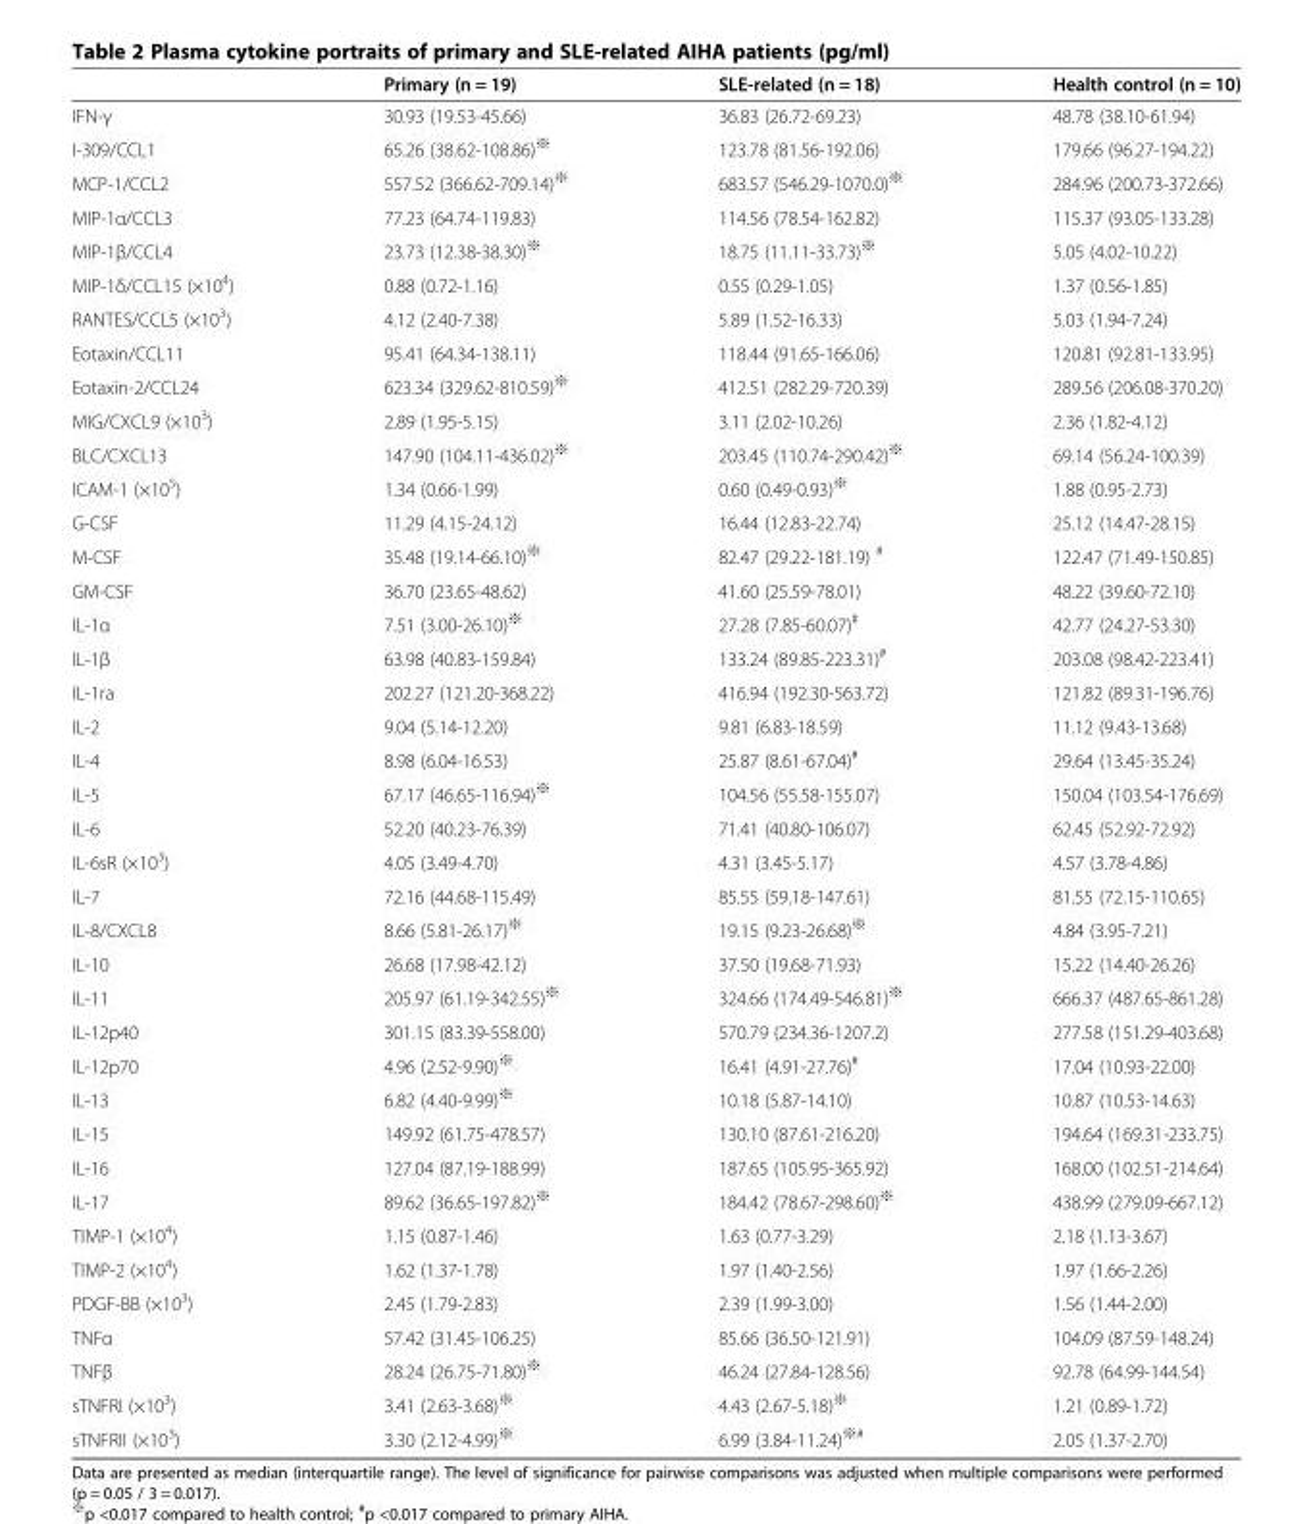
<table><thead><tr><td></td><td>Primary (n = 19)</td><td>SLE-related (n = 18)</td><td>Health control (n = 10)</td></tr></thead><tbody><tr><td>IFN-γ</td><td>30.93 (19.53-45.66)</td><td>36.83 (26.72-69.23)</td><td>48.78 (38.10-61.94)</td></tr><tr><td>I-309/CCL1</td><td>65.26 (38.62-108.86)<sup>※</sup></td><td>123.78 (81.56-192.06)</td><td>179.66 (96.27-194.22)</td></tr><tr><td>MCP-1/CCL2</td><td>557.52 (366.62-709.14)<sup>※</sup></td><td>683.57 (546.29-1070.0)<sup>※</sup></td><td>284.96 (200.73-372.66)</td></tr><tr><td>MIP-1α/CCL3</td><td>77.23 (64.74-119.83)</td><td>114.56 (78.54-162.82)</td><td>115.37 (93.05-133.28)</td></tr><tr><td>MIP-1β/CCL4</td><td>23.73 (12.38-38.30)<sup>※</sup></td><td>18.75 (11.11-33.73)<sup>※</sup></td><td>5.05 (4.02-10.22)</td></tr><tr><td>MIP-1δ/CCL15 (×10<sup>4</sup>)</td><td>0.88 (0.72-1.16)</td><td>0.55 (0.29-1.05)</td><td>1.37 (0.56-1.85)</td></tr><tr><td>RANTES/CCL5 (×10<sup>3</sup>)</td><td>4.12 (2.40-7.38)</td><td>5.89 (1.52-16.33)</td><td>5.03 (1.94-7.24)</td></tr><tr><td>Eotaxin/CCL11</td><td>95.41 (64.34-138.11)</td><td>118.44 (91.65-166.06)</td><td>120.81 (92.81-133.95)</td></tr><tr><td>Eotaxin-2/CCL24</td><td>623.34 (329.62-810.59)<sup>※</sup></td><td>412.51 (282.29-720.39)</td><td>289.56 (206.08-370.20)</td></tr><tr><td>MIG/CXCL9 (×10<sup>3</sup>)</td><td>2.89 (1.95-5.15)</td><td>3.11 (2.02-10.26)</td><td>2.36 (1.82-4.12)</td></tr><tr><td>BLC/CXCL13</td><td>147.90 (104.11-436.02)<sup>※</sup></td><td>203.45 (110.74-290.42)<sup>※</sup></td><td>69.14 (56.24-100.39)</td></tr><tr><td>ICAM-1 (×10<sup>5</sup>)</td><td>1.34 (0.66-1.99)</td><td>0.60 (0.49-0.93)<sup>※</sup></td><td>1.88 (0.95-2.73)</td></tr><tr><td>G-CSF</td><td>11.29 (4.15-24.12)</td><td>16.44 (12.83-22.74)</td><td>25.12 (14.47-28.15)</td></tr><tr><td>M-CSF</td><td>35.48 (19.14-66.10)<sup>※</sup></td><td>82.47 (29.22-181.19) <sup>#</sup></td><td>122.47 (71.49-150.85)</td></tr><tr><td>GM-CSF</td><td>36.70 (23.65-48.62)</td><td>41.60 (25.59-78.01)</td><td>48.22 (39.60-72.10)</td></tr><tr><td>IL-1α</td><td>7.51 (3.00-26.10)<sup>※</sup></td><td>27.28 (7.85-60.07)<sup>#</sup></td><td>42.77 (24.27-53.30)</td></tr><tr><td>IL-1β</td><td>63.98 (40.83-159.84)</td><td>133.24 (89.85-223.31)<sup>#</sup></td><td>203.08 (98.42-223.41)</td></tr><tr><td>IL-1ra</td><td>202.27 (121.20-368.22)</td><td>416.94 (192.30-563.72)</td><td>121.82 (89.31-196.76)</td></tr><tr><td>IL-2</td><td>9.04 (5.14-12.20)</td><td>9.81 (6.83-18.59)</td><td>11.12 (9.43-13.68)</td></tr><tr><td>IL-4</td><td>8.98 (6.04-16.53)</td><td>25.87 (8.61-67.04)<sup>#</sup></td><td>29.64 (13.45-35.24)</td></tr><tr><td>IL-5</td><td>67.17 (46.65-116.94)<sup>※</sup></td><td>104.56 (55.58-155.07)</td><td>150.04 (103.54-176.69)</td></tr><tr><td>IL-6</td><td>52.20 (40.23-76.39)</td><td>71.41 (40.80-106.07)</td><td>62.45 (52.92-72.92)</td></tr><tr><td>IL-6sR (×10<sup>3</sup>)</td><td>4.05 (3.49-4.70)</td><td>4.31 (3.45-5.17)</td><td>4.57 (3.78-4.86)</td></tr><tr><td>IL-7</td><td>72.16 (44.68-115.49)</td><td>85.55 (59.18-147.61)</td><td>81.55 (72.15-110.65)</td></tr><tr><td>IL-8/CXCL8</td><td>8.66 (5.81-26.17)<sup>※</sup></td><td>19.15 (9.23-26.68)<sup>※</sup></td><td>4.84 (3.95-7.21)</td></tr><tr><td>IL-10</td><td>26.68 (17.98-42.12)</td><td>37.50 (19.68-71.93)</td><td>15.22 (14.40-26.26)</td></tr><tr><td>IL-11</td><td>205.97 (61.19-342.55)<sup>※</sup></td><td>324.66 (174.49-546.81)<sup>※</sup></td><td>666.37 (487.65-861.28)</td></tr><tr><td>IL-12p40</td><td>301.15 (83.39-558.00)</td><td>570.79 (234.36-1207.2)</td><td>277.58 (151.29-403.68)</td></tr><tr><td>IL-12p70</td><td>4.96 (2.52-9.90)<sup>※</sup></td><td>16.41 (4.91-27.76)<sup>#</sup></td><td>17.04 (10.93-22.00)</td></tr><tr><td>IL-13</td><td>6.82 (4.40-9.99)<sup>※</sup></td><td>10.18 (5.87-14.10)</td><td>10.87 (10.53-14.63)</td></tr><tr><td>IL-15</td><td>149.92 (61.75-478.57)</td><td>130.10 (87.61-216.20)</td><td>194.64 (169.31-233.75)</td></tr><tr><td>IL-16</td><td>127.04 (87.19-188.99)</td><td>187.65 (105.95-365.92)</td><td>168.00 (102.51-214.64)</td></tr><tr><td>IL-17</td><td>89.62 (36.65-197.82)<sup>※</sup></td><td>184.42 (78.67-298.60)<sup>※</sup></td><td>438.99 (279.09-667.12)</td></tr><tr><td>TIMP-1 (×10<sup>4</sup>)</td><td>1.15 (0.87-1.46)</td><td>1.63 (0.77-3.29)</td><td>2.18 (1.13-3.67)</td></tr><tr><td>TIMP-2 (×10<sup>4</sup>)</td><td>1.62 (1.37-1.78)</td><td>1.97 (1.40-2.56)</td><td>1.97 (1.66-2.26)</td></tr><tr><td>PDGF-BB (×10<sup>3</sup>)</td><td>2.45 (1.79-2.83)</td><td>2.39 (1.99-3.00)</td><td>1.56 (1.44-2.00)</td></tr><tr><td>TNFα</td><td>57.42 (31.45-106.25)</td><td>85.66 (36.50-121.91)</td><td>104.09 (87.59-148.24)</td></tr><tr><td>TNFβ</td><td>28.24 (26.75-71.80)<sup>※</sup></td><td>46.24 (27.84-128.56)</td><td>92.78 (64.99-144.54)</td></tr><tr><td>sTNFRI (×10<sup>3</sup>)</td><td>3.41 (2.63-3.68)<sup>※</sup></td><td>4.43 (2.67-5.18)<sup>※</sup></td><td>1.21 (0.89-1.72)</td></tr><tr><td>sTNFRII (×10<sup>3</sup>)</td><td>3.30 (2.12-4.99)<sup>※</sup></td><td>6.99 (3.84-11.24)<sup>※#</sup></td><td>2.05 (1.37-2.70)</td></tr></tbody></table>